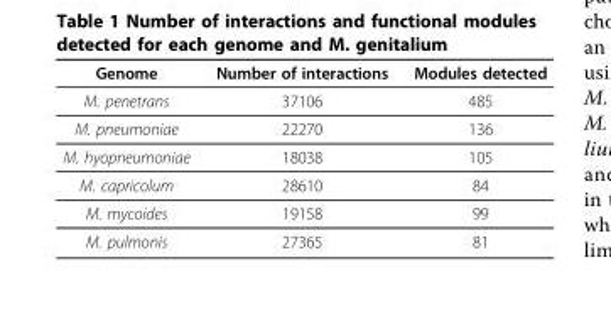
<table><thead><tr><td>Genome</td><td>Number of interactions</td><td>Modules detected</td></tr></thead><tbody><tr><td>M. penetrans</td><td>37106</td><td>485</td></tr><tr><td>M. pneumoniae</td><td>22270</td><td>136</td></tr><tr><td>M. hyopneumoniae</td><td>18038</td><td>105</td></tr><tr><td>M. capricolum</td><td>28610</td><td>84</td></tr><tr><td>M. mycoides</td><td>19158</td><td>99</td></tr><tr><td>M. pulmonis</td><td>27365</td><td>81</td></tr></tbody></table>